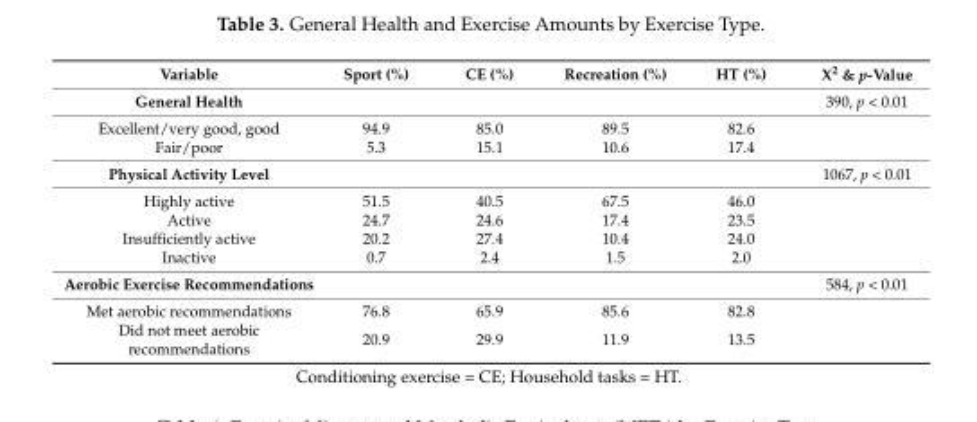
<table><thead><tr><td>Variable</td><td>Sport (%)</td><td>CE (%)</td><td>Recreation (%)</td><td>HT (%)</td><td>X<sup>2</sup> &amp; p-Value</td></tr></thead><tbody><tr><td>General Health</td><td></td><td></td><td></td><td></td><td>390, p &lt; 0.01</td></tr><tr><td>Excellent/very good, good</td><td>94.9</td><td>85.0</td><td>89.5</td><td>82.6</td><td></td></tr><tr><td>Fair/poor</td><td>5.3</td><td>15.1</td><td>10.6</td><td>17.4</td><td></td></tr><tr><td>Physical Activity Level</td><td></td><td></td><td></td><td></td><td>1067, p &lt; 0.01</td></tr><tr><td>Highly active</td><td>51.5</td><td>40.5</td><td>67.5</td><td>46.0</td><td></td></tr><tr><td>Active</td><td>24.7</td><td>24.6</td><td>17.4</td><td>23.5</td><td></td></tr><tr><td>Insufficiently active</td><td>20.2</td><td>27.4</td><td>10.4</td><td>24.0</td><td></td></tr><tr><td>Inactive</td><td>0.7</td><td>2.4</td><td>1.5</td><td>2.0</td><td></td></tr><tr><td>Aerobic Exercise Recommendations</td><td></td><td></td><td></td><td></td><td>584, p &lt; 0.01</td></tr><tr><td>Met aerobic recommendations</td><td>76.8</td><td>65.9</td><td>85.6</td><td>82.8</td><td></td></tr><tr><td>Did not meet aerobic recommendations</td><td>20.9</td><td>29.9</td><td>11.9</td><td>13.5</td><td></td></tr></tbody></table>